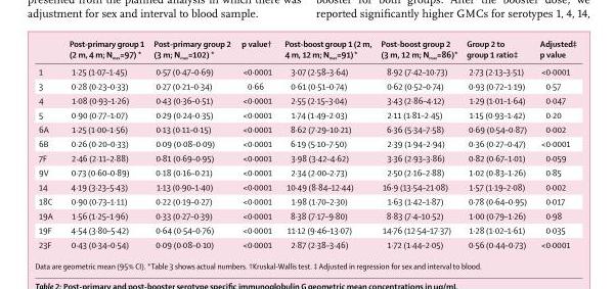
<table><thead><tr><td></td><td>Post-primary group 1 (2 m, 4 m; N<sub>max</sub>=97) *</td><td>Post-primary group 2 (3 m; N<sub>max</sub>=102) *</td><td>p value†</td><td>Post-boost group 1 (2 m, 4 m, 12 m; N<sub>max</sub>=91) *</td><td>Post-boost group 2 (3 m, 12 m; N<sub>max</sub>=86)*</td><td>Group 2 to group 1 ratio‡</td><td>Adjusted‡ p value</td></tr></thead><tbody><tr><td>1</td><td>1·25 (1·07–1·45)</td><td>0·57 (0·47–0·69)</td><td>&lt;0·0001</td><td>3·07 (2·58–3·64)</td><td>8·92 (7·42–10·73)</td><td>2·73 (2·13–3·51)</td><td>&lt;0·0001</td></tr><tr><td>3</td><td>0·28 (0·23–0·33)</td><td>0·27 (0·21–0·34)</td><td>0·66</td><td>0·61 (0·51–0·74)</td><td>0·62 (0·52–0·74)</td><td>0·93 (0·72–1·19)</td><td>0·57</td></tr><tr><td>4</td><td>1·08 (0·93–1·26)</td><td>0·43 (0·36–0·51)</td><td>&lt;0·0001</td><td>2·55 (2·15–3·04)</td><td>3·43 (2·86–4·12)</td><td>1·29 (1·01–1·64)</td><td>0·047</td></tr><tr><td>5</td><td>0·90 (0·77–1·07)</td><td>0·29 (0·24–0·35)</td><td>&lt;0·0001</td><td>1·74 (1·49–2·03)</td><td>2·11 (1·81–2·45)</td><td>1·15 (0·93–1·42)</td><td>0·20</td></tr><tr><td>6A</td><td>1·25 (1·00–1·56)</td><td>0·13 (0·11–0·15)</td><td>&lt;0·0001</td><td>8·62 (7·29–10·21)</td><td>6·36 (5·34–7·58)</td><td>0·69 (0·54–0·87)</td><td>0·002</td></tr><tr><td>6B</td><td>0·26 (0·20–0·33)</td><td>0·09 (0·08–0·09)</td><td>&lt;0·0001</td><td>6·19 (5·10–7·50)</td><td>2·39 (1·94–2·94)</td><td>0·36 (0·27–0·47)</td><td>&lt;0·0001</td></tr><tr><td>7F</td><td>2·46 (2·11–2·88)</td><td>0·81 (0·69–0·95)</td><td>&lt;0·0001</td><td>3·98 (3·42–4·62)</td><td>3·36 (2·93–3·86)</td><td>0·82 (0·67–1·01)</td><td>0·059</td></tr><tr><td>9V</td><td>0·73 (0·60–0·89)</td><td>0·18 (0·16–0·21)</td><td>&lt;0·0001</td><td>2·34 (2·00–2·73)</td><td>2·50 (2·16–2·88)</td><td>1·02 (0·83–1·26)</td><td>0·85</td></tr><tr><td>14</td><td>4·19 (3·23–5·43)</td><td>1·13 (0·90–1·40)</td><td>&lt;0·0001</td><td>10·49 (8·84–12·44)</td><td>16·9 (13·54–21·08)</td><td>1·57 (1·19–2·08)</td><td>0·002</td></tr><tr><td>18C</td><td>0·90 (0·73–1·11)</td><td>0·22 (0·19–0·27)</td><td>&lt;0·0001</td><td>1·98 (1·70–2·30)</td><td>1·63 (1·42–1·87)</td><td>0·78 (0·64–0·95)</td><td>0·017</td></tr><tr><td>19A</td><td>1·56 (1·25–1·96)</td><td>0·33 (0·27–0·39)</td><td>&lt;0·0001</td><td>8·38 (7·17–9·80)</td><td>8·83 (7·4–10·52)</td><td>1·00 (0·79–1·26)</td><td>0·98</td></tr><tr><td>19F</td><td>4·54 (3·80–5·42)</td><td>0·64 (0·54–0·76)</td><td>&lt;0·0001</td><td>11·12 (9·46–13·07)</td><td>14·76 (12·54–17·37)</td><td>1·28 (1·02–1·61)</td><td>0·035</td></tr><tr><td>23F</td><td>0·43 (0·34–0·54)</td><td>0·09 (0·08–0·10)</td><td>&lt;0·0001</td><td>2·87 (2·38–3·46)</td><td>1·72 (1·44–2·05)</td><td>0·56 (0·44–0·73)</td><td>&lt;0·0001</td></tr></tbody></table>